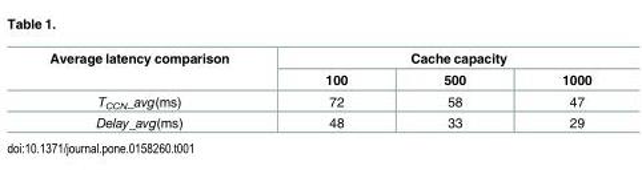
<table><thead><tr><td rowspan="2">Average latency comparison</td><td colspan="3">Cache capacity</td></tr><tr><td>100</td><td>500</td><td>1000</td></tr></thead><tbody><tr><td>T<sub>CCN</sub>_avg(ms)</td><td>72</td><td>58</td><td>47</td></tr><tr><td>Delay_avg(ms)</td><td>48</td><td>33</td><td>29</td></tr></tbody></table>